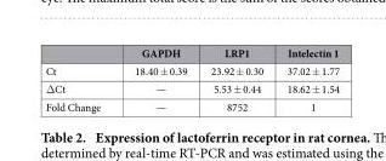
<table><thead><tr><td></td><td>GAPDH</td><td>LRP1</td><td>Intelectin 1</td></tr></thead><tbody><tr><td>Ct</td><td>18.40 ± 0.39</td><td>23.92 ± 0.30</td><td>37.02 ± 1.77</td></tr><tr><td>Δ Ct</td><td>—</td><td>5.53 ± 0.44</td><td>18.62 ± 1.54</td></tr><tr><td>Fold Change</td><td>—</td><td>8752</td><td>1</td></tr></tbody></table>